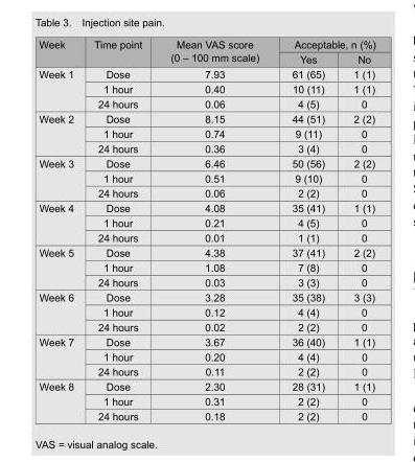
<table><thead><tr><td rowspan="2">Week</td><td rowspan="2">Time point</td><td rowspan="2">Mean VAS score (0 – 100 mm scale)</td><td colspan="2">Acceptable, n (%)</td></tr><tr><td>Yes</td><td>No</td></tr></thead><tbody><tr><td rowspan="3">Week 1</td><td>Dose</td><td>7.93</td><td>61 (65)</td><td>1 (1)</td></tr><tr><td>1 hour</td><td>0.40</td><td>10 (11)</td><td>1 (1)</td></tr><tr><td>24 hours</td><td>0.06</td><td>4 (5)</td><td>0</td></tr><tr><td rowspan="3">Week 2</td><td>Dose</td><td>8.15</td><td>44 (51)</td><td>2 (2)</td></tr><tr><td>1 hour</td><td>0.74</td><td>9 (11)</td><td>0</td></tr><tr><td>24 hours</td><td>0.36</td><td>3 (4)</td><td>0</td></tr><tr><td rowspan="3">Week 3</td><td>Dose</td><td>6.46</td><td>50 (56)</td><td>2 (2)</td></tr><tr><td>1 hour</td><td>0.51</td><td>9 (10)</td><td>0</td></tr><tr><td>24 hours</td><td>0.06</td><td>2 (2)</td><td>0</td></tr><tr><td rowspan="3">Week 4</td><td>Dose</td><td>4.08</td><td>35 (41)</td><td>1 (1)</td></tr><tr><td>1 hour</td><td>0.21</td><td>4 (5)</td><td>0</td></tr><tr><td>24 hours</td><td>0.01</td><td>1 (1)</td><td>0</td></tr><tr><td rowspan="3">Week 5</td><td>Dose</td><td>4.38</td><td>37 (41)</td><td>2 (2)</td></tr><tr><td>1 hour</td><td>1.08</td><td>7 (8)</td><td>0</td></tr><tr><td>24 hours</td><td>0.03</td><td>3 (3)</td><td>0</td></tr><tr><td rowspan="3">Week 6</td><td>Dose</td><td>3.28</td><td>35 (38)</td><td>3 (3)</td></tr><tr><td>1 hour</td><td>0.12</td><td>4 (4)</td><td>0</td></tr><tr><td>24 hours</td><td>0.02</td><td>2 (2)</td><td>0</td></tr><tr><td rowspan="3">Week 7</td><td>Dose</td><td>3.67</td><td>36 (40)</td><td>1 (1)</td></tr><tr><td>1 hour</td><td>0.20</td><td>4 (4)</td><td>0</td></tr><tr><td>24 hours</td><td>0.11</td><td>2 (2)</td><td>0</td></tr><tr><td rowspan="3">Week 8</td><td>Dose</td><td>2.30</td><td>28 (31)</td><td>1 (1)</td></tr><tr><td>1 hour</td><td>0.31</td><td>2 (2)</td><td>0</td></tr><tr><td>24 hours</td><td>0.18</td><td>2 (2)</td><td>0</td></tr></tbody></table>